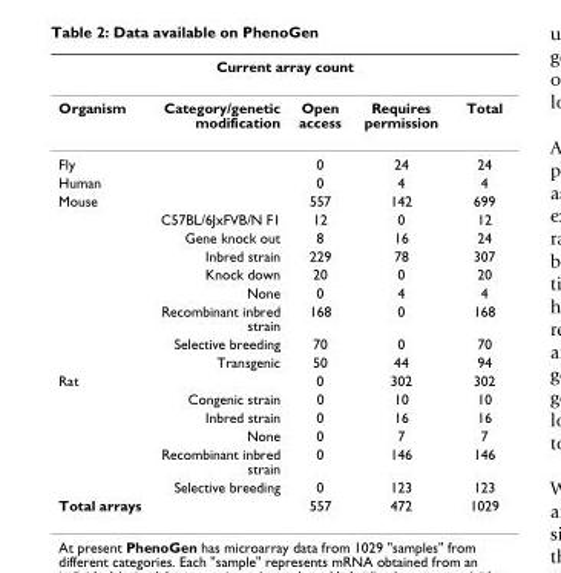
<table><thead><tr><td colspan="5">Current array count</td></tr><tr><td>Organism</td><td>Category/genetic modification</td><td>Open access</td><td>Requires permission</td><td>Total</td></tr></thead><tbody><tr><td>Fly</td><td></td><td>0</td><td>24</td><td>24</td></tr><tr><td>Human</td><td></td><td>0</td><td>4</td><td>4</td></tr><tr><td rowspan="9">Mouse</td><td></td><td>557</td><td>142</td><td>699</td></tr><tr><td>C57BL/6JxFVB/N F1</td><td>12</td><td>0</td><td>12</td></tr><tr><td>Gene knock out</td><td>8</td><td>16</td><td>24</td></tr><tr><td>Inbred strain</td><td>229</td><td>78</td><td>307</td></tr><tr><td>Knock down</td><td>20</td><td>0</td><td>20</td></tr><tr><td>None</td><td>0</td><td>4</td><td>4</td></tr><tr><td>Recombinant inbred strain</td><td>168</td><td>0</td><td>168</td></tr><tr><td>Selective breeding</td><td>70</td><td>0</td><td>70</td></tr><tr><td>Transgenic</td><td>50</td><td>44</td><td>94</td></tr><tr><td rowspan="6">Rat</td><td></td><td>0</td><td>302</td><td>302</td></tr><tr><td>Congenic strain</td><td>0</td><td>10</td><td>10</td></tr><tr><td>Inbred strain</td><td>0</td><td>16</td><td>16</td></tr><tr><td>None</td><td>0</td><td>7</td><td>7</td></tr><tr><td>Recombinant inbred strain</td><td>0</td><td>146</td><td>146</td></tr><tr><td>Selective breeding</td><td>0</td><td>123</td><td>123</td></tr><tr><td colspan="2">Total arrays</td><td>557</td><td>472</td><td>1029</td></tr></tbody></table>